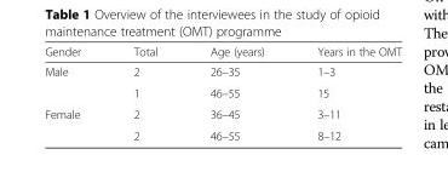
<table><thead><tr><td>Gender</td><td>Total</td><td>Age (years)</td><td>Years in the OMT</td></tr></thead><tbody><tr><td rowspan="2">Male</td><td>2</td><td>26–35</td><td>1–3</td></tr><tr><td>1</td><td>46–55</td><td>15</td></tr><tr><td rowspan="2">Female</td><td>2</td><td>36–45</td><td>3–11</td></tr><tr><td>2</td><td>46–55</td><td>8–12</td></tr></tbody></table>